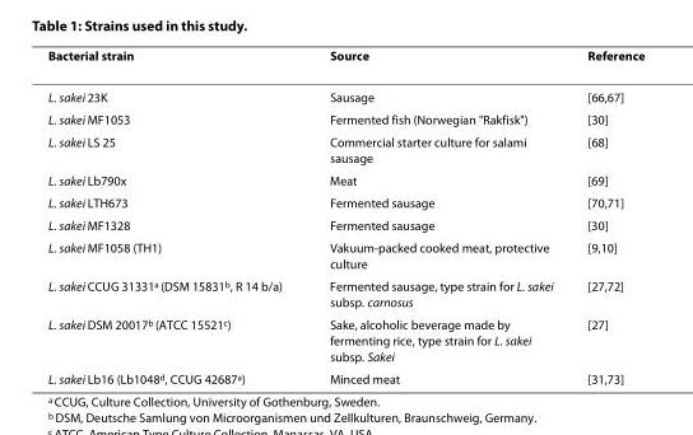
<table><thead><tr><td>Bacterial strain</td><td>Source</td><td>Reference</td></tr></thead><tbody><tr><td>L. sakei 23K</td><td>Sausage</td><td>[66,67]</td></tr><tr><td>L. sakei MF1053</td><td>Fermented fish (Norwegian &quot;Rakfisk&quot;)</td><td>[30]</td></tr><tr><td>L. sakei LS 25</td><td>Commercial starter culture for salami sausage</td><td>[68]</td></tr><tr><td>L. sakei Lb790x</td><td>Meat</td><td>[69]</td></tr><tr><td>L. sakei LTH673</td><td>Fermented sausage</td><td>[70,71]</td></tr><tr><td>L. sakei MF1328</td><td>Fermented sausage</td><td>[30]</td></tr><tr><td>L. sakei MF1058 (TH1)</td><td>Vakuum-packed cooked meat, protective culture</td><td>[9,10]</td></tr><tr><td>L. sakei CCUG 31331<sup>a</sup> (DSM 15831<sup>b</sup>, R 14 b/a)</td><td>Fermented sausage, type strain for L. sakei subsp. carnosus</td><td>[27,72]</td></tr><tr><td>L. sakei DSM 20017<sup>b</sup> (ATCC 15521<sup>c</sup>)</td><td>Sake, alcoholic beverage made by fermenting rice, type strain for L. sakei subsp. Sakei</td><td>[27]</td></tr><tr><td>L. sakei Lb16 (Lb1048<sup>d</sup>, CCUG 42687<sup>a</sup>)</td><td>Minced meat</td><td>[31,73]</td></tr></tbody></table>